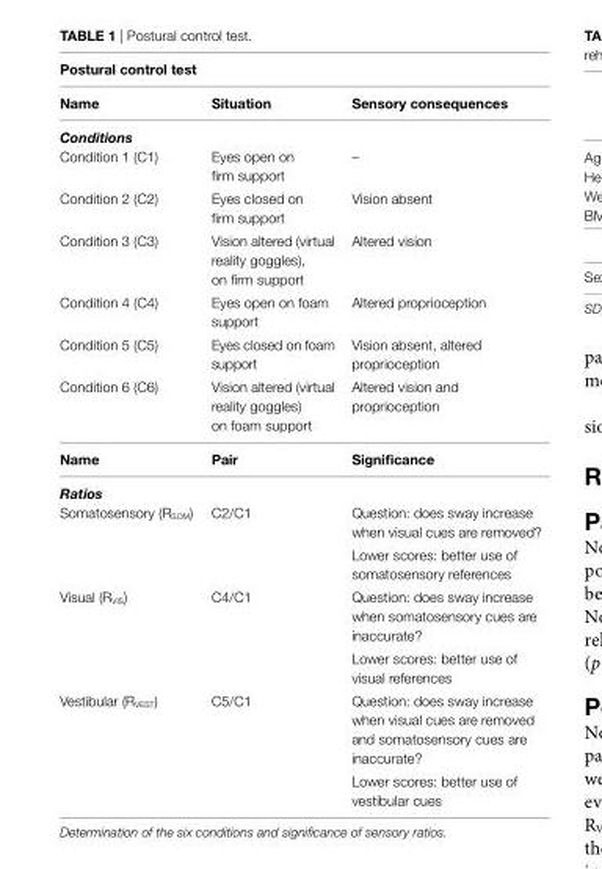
<table><thead><tr><td colspan="3">Postural control test</td></tr><tr><td>name</td><td>situation</td><td>sensory consequences</td></tr></thead><tbody><tr><td colspan="3">Conditions</td></tr><tr><td>Condition 1 (C1)</td><td>Eyes open on firm support</td><td>–</td></tr><tr><td>Condition 2 (C2)</td><td>Eyes closed on firm support</td><td>Vision absent</td></tr><tr><td>Condition 3 (C3)</td><td>Vision altered (virtual reality goggles), on firm support</td><td>Altered vision</td></tr><tr><td>Condition 4 (C4)</td><td>Eyes open on foam support</td><td>Altered proprioception</td></tr><tr><td>Condition 5 (C5)</td><td>Eyes closed on foam support</td><td>Vision absent, altered proprioception</td></tr><tr><td>Condition 6 (C6)</td><td>Vision altered (virtual reality goggles) on foam support</td><td>Altered vision and proprioception</td></tr><tr><td>name</td><td>Pair</td><td>significance</td></tr><tr><td colspan="3">Ratios</td></tr><tr><td rowspan="2">Somatosensory (R<sub>SOM</sub>)</td><td>C2/C1</td><td>Question: does sway increase when visual cues are removed?</td></tr><tr><td></td><td>Lower scores: better use of somatosensory references</td></tr><tr><td rowspan="2">Visual (R<sub>VIS</sub>)</td><td>C4/C1</td><td>Question: does sway increase when somatosensory cues are inaccurate?</td></tr><tr><td></td><td>Lower scores: better use of visual references</td></tr><tr><td rowspan="2">Vestibular (R<sub>VEST</sub>)</td><td>C5/C1</td><td>Question: does sway increase when visual cues are removed and somatosensory cues are inaccurate?</td></tr><tr><td></td><td>Lower scores: better use of vestibular cues</td></tr></tbody></table>